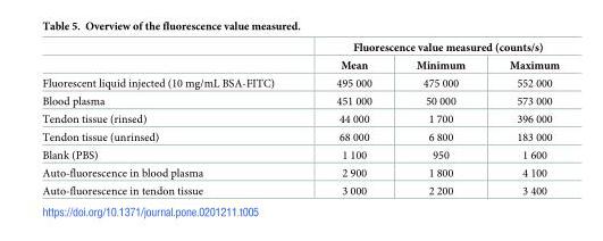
<table><thead><tr><td rowspan="2"></td><td colspan="3">Fluorescence value measured (counts/s)</td></tr><tr><td>Mean</td><td>Minimum</td><td>Maximum</td></tr></thead><tbody><tr><td>Fluorescent liquid injected (10 mg/mL BSA-FITC)</td><td>495 000</td><td>475 000</td><td>552 000</td></tr><tr><td>Blood plasma</td><td>451 000</td><td>50 000</td><td>573 000</td></tr><tr><td>Tendon tissue (rinsed)</td><td>44 000</td><td>1 700</td><td>396 000</td></tr><tr><td>Tendon tissue (unrinsed)</td><td>68 000</td><td>6 800</td><td>183 000</td></tr><tr><td>Blank (PBS)</td><td>1 100</td><td>950</td><td>1 600</td></tr><tr><td>Auto-fluorescence in blood plasma</td><td>2 900</td><td>1 800</td><td>4 100</td></tr><tr><td>Auto-fluorescence in tendon tissue</td><td>3 000</td><td>2 200</td><td>3 400</td></tr></tbody></table>